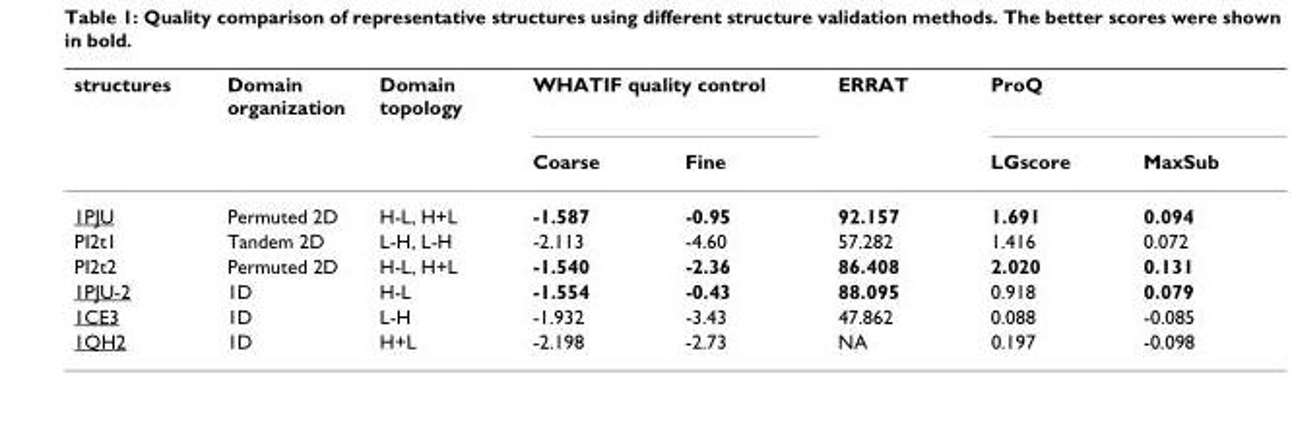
<table><thead><tr><td rowspan="2">structures</td><td rowspan="2">Domain organization</td><td rowspan="2">Domain topology</td><td colspan="2">WHATIF quality control</td><td rowspan="2">ERRAT</td><td colspan="2">ProQ</td></tr><tr><td>Coarse</td><td>Fine</td><td>LGscore</td><td>MaxSub</td></tr></thead><tbody><tr><td>1PJU</td><td>Permuted 2D</td><td>H-L, H+L</td><td>-1.587</td><td>-0.95</td><td>92.157</td><td>1.691</td><td>0.094</td></tr><tr><td>PI2t1</td><td>Tandem 2D</td><td>L-H, L-H</td><td>-2.113</td><td>-4.60</td><td>57.282</td><td>1.416</td><td>0.072</td></tr><tr><td>PI2t2</td><td>Permuted 2D</td><td>H-L, H+L</td><td>-1.540</td><td>-2.36</td><td>86.408</td><td>2.020</td><td>0.131</td></tr><tr><td>1PJU-2</td><td>1D</td><td>H-L</td><td>-1.554</td><td>-0.43</td><td>88.095</td><td>0.918</td><td>0.079</td></tr><tr><td>1CE3</td><td>1D</td><td>L-H</td><td>-1.932</td><td>-3.43</td><td>47.862</td><td>0.088</td><td>-0.085</td></tr><tr><td>1QH2</td><td>1D</td><td>H+L</td><td>-2.198</td><td>-2.73</td><td>NA</td><td>0.197</td><td>-0.098</td></tr></tbody></table>